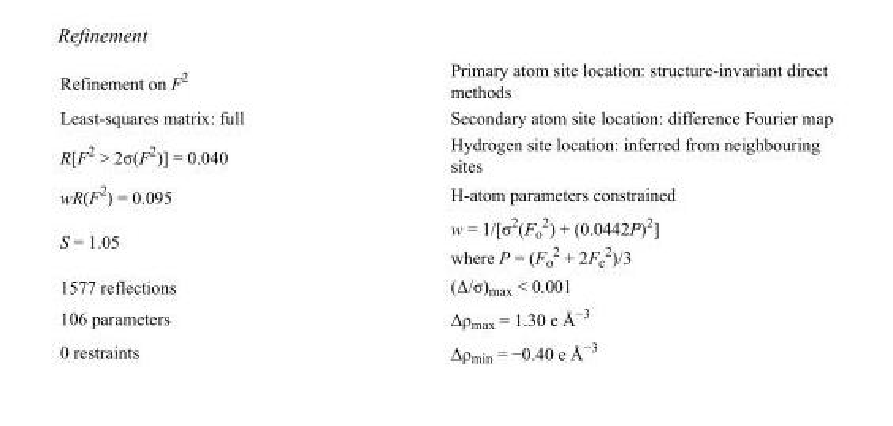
<table><tbody><tr><td>Refinement on F<sup>2</sup></td><td>Primary atom site location: structure-invariant direct methods</td></tr><tr><td>Least-squares matrix: full</td><td>Secondary atom site location: difference Fourier map</td></tr><tr><td>R[F<sup>2</sup> &gt; 2σ(F<sup>2</sup>)] = 0.040</td><td>Hydrogen site location: inferred from neighbouring sites</td></tr><tr><td>wR(F<sup>2</sup>) = 0.095</td><td>H-atom parameters constrained</td></tr><tr><td>S = 1.05</td><td>w = 1/[σ<sup>2</sup>(F<sub>o</sub> <sup>2</sup>) + (0.0442P)<sup>2</sup>] where P = (F<sub>o</sub> <sup>2</sup> + 2F<sub>c</sub> <sup>2</sup>)/3</td></tr><tr><td>1577 reflections</td><td>(Δ/σ)<sub>max</sub> &lt; 0.001</td></tr><tr><td>106 parameters</td><td>Δρ<sub>max</sub> = 1.30 e Å<sup>−3</sup></td></tr><tr><td>0 restraints</td><td>Δρ<sub>min</sub> = −0.40 e Å<sup>−3</sup></td></tr></tbody></table>